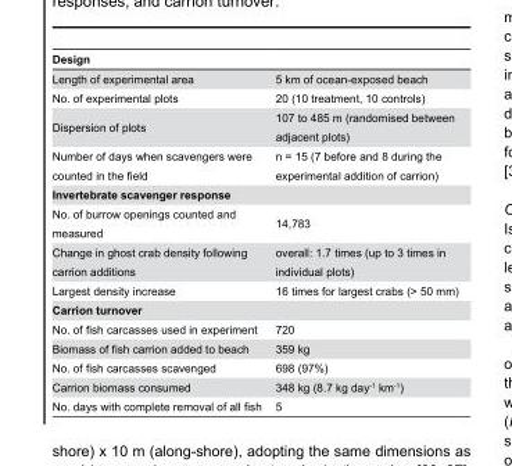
<table><thead><tr><td>Design</td><td></td></tr></thead><tbody><tr><td>Length of experimental area</td><td>5 km of ocean-exposed beach</td></tr><tr><td>No. of experimental plots</td><td>20 (10 treatment, 10 controls)</td></tr><tr><td>Dispersion of plots</td><td>107 to 485 m (randomised between adjacent plots)</td></tr><tr><td>Number of days when scavengers were counted in the field</td><td>n = 15 (7 before and 8 during the experimental addition of carrion)</td></tr><tr><td colspan="2">Invertebrate scavenger response</td></tr><tr><td>No. of burrow openings counted and measured</td><td>14,783</td></tr><tr><td>Change in ghost crab density following carrion additions</td><td>overall: 1.7 times (up to 3 times in individual plots)</td></tr><tr><td>Largest density increase</td><td>16 times for largest crabs (&gt; 50 mm)</td></tr><tr><td colspan="2">Carrion turnover</td></tr><tr><td>No. of fish carcasses used in experiment</td><td>720</td></tr><tr><td>Biomass of fish carrion added to beach</td><td>359 kg</td></tr><tr><td>No. of fish carcasses scavenged</td><td>698 (97%)</td></tr><tr><td>Carrion biomass consumed</td><td>348 kg (8.7 kg day<sup>-1</sup> km<sup>-1</sup>)</td></tr><tr><td>No. days with complete removal of all fish</td><td>5</td></tr></tbody></table>